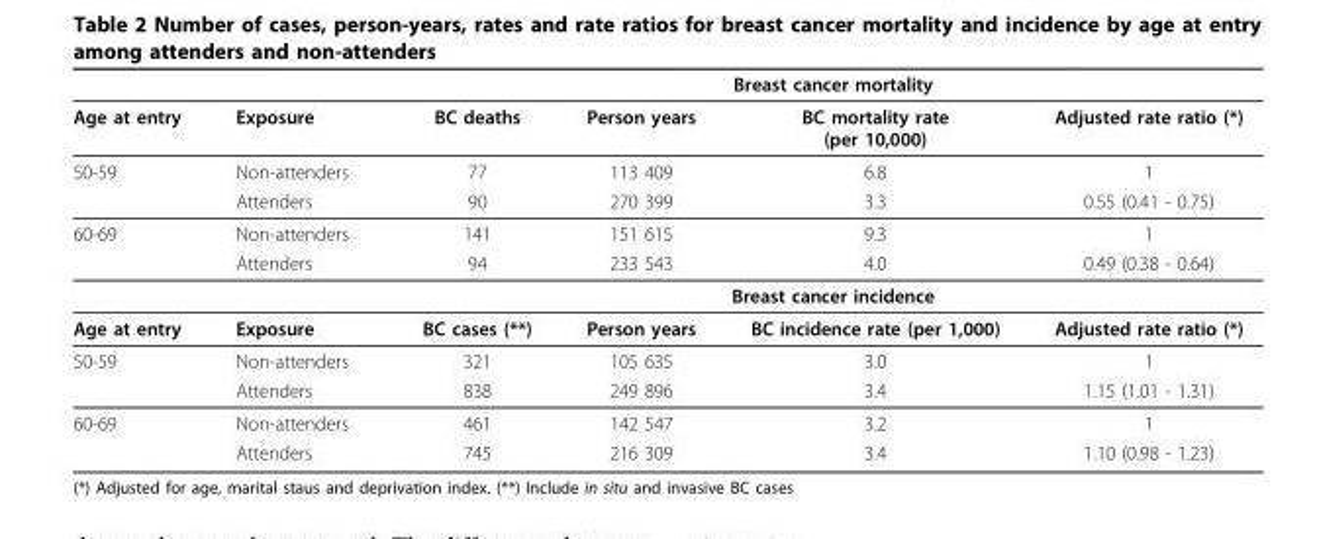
<table><thead><tr><td rowspan="2">Age at entry</td><td rowspan="2">Exposure</td><td colspan="4">Breast cancer mortality</td></tr><tr><td>BC deaths</td><td>Person years</td><td>BC mortality rate (per 10,000)</td><td>Adjusted rate ratio (*)</td></tr></thead><tbody><tr><td rowspan="2">50-59</td><td>Non-attenders</td><td>77</td><td>113 409</td><td>6.8</td><td>1</td></tr><tr><td>Attenders</td><td>90</td><td>270 399</td><td>3.3</td><td>0.55 (0.41 - 0.75)</td></tr><tr><td rowspan="3">60-69</td><td>Non-attenders</td><td>141</td><td>151 615</td><td>9.3</td><td>1</td></tr><tr><td>Attenders</td><td>94</td><td>233 543</td><td>4.0</td><td>0.49 (0.38 - 0.64)</td></tr><tr><td></td><td colspan="4">Breast cancer incidence</td></tr><tr><td>Age at entry</td><td>Exposure</td><td>BC cases (**)</td><td>Person years</td><td>BC incidence rate (per 1,000)</td><td>Adjusted rate ratio (*)</td></tr><tr><td rowspan="2">50-59</td><td>Non-attenders</td><td>321</td><td>105 635</td><td>3.0</td><td>1</td></tr><tr><td>Attenders</td><td>838</td><td>249 896</td><td>3.4</td><td>1.15 (1.01 - 1.31)</td></tr><tr><td rowspan="2">60-69</td><td>Non-attenders</td><td>461</td><td>142 547</td><td>3.2</td><td>1</td></tr><tr><td>Attenders</td><td>745</td><td>216 309</td><td>3.4</td><td>1.10 (0.98 - 1.23)</td></tr></tbody></table>